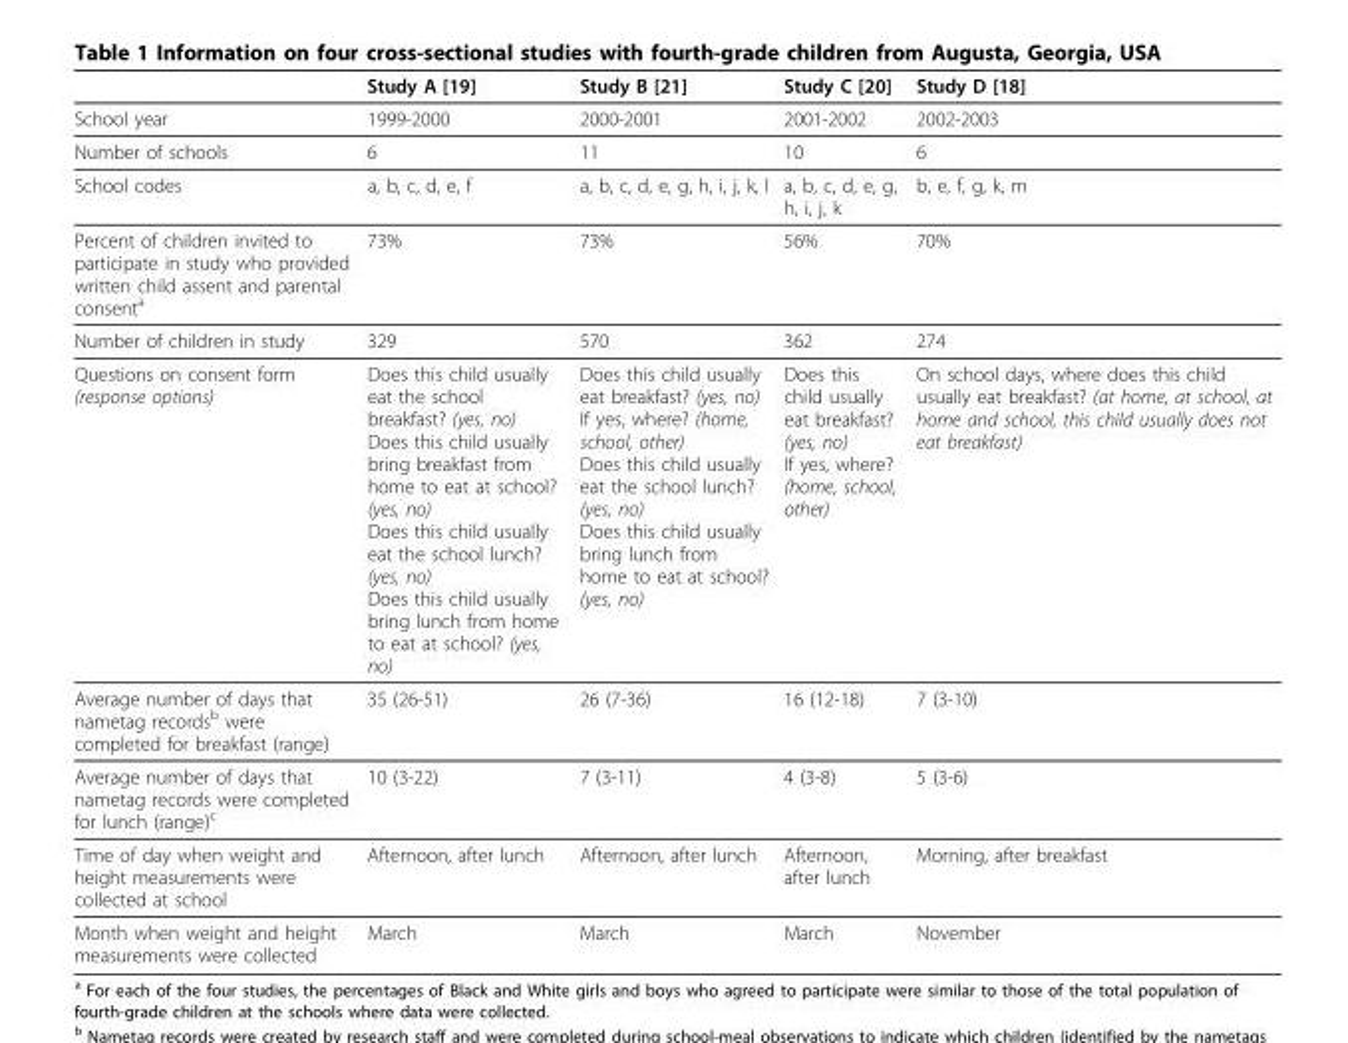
<table><thead><tr><td></td><td>Study A [19]</td><td>Study B [21]</td><td>Study C [20]</td><td>Study D [18]</td></tr></thead><tbody><tr><td>School year</td><td>1999-2000</td><td>2000-2001</td><td>2001-2002</td><td>2002-2003</td></tr><tr><td>Number of schools</td><td>6</td><td>11</td><td>10</td><td>6</td></tr><tr><td>School codes</td><td>a, b, c, d, e, f</td><td>a, b, c, d, e, g, h, i, j, k, l</td><td>a, b, c, d, e, g, h, i, j, k</td><td>b, e, f, g, k, m</td></tr><tr><td>Percent of children invited to participate in study who provided written child assent and parental consent<sup>a</sup></td><td>73%</td><td>73%</td><td>56%</td><td>70%</td></tr><tr><td>Number of children in study</td><td>329</td><td>570</td><td>362</td><td>274</td></tr><tr><td>Questions on consent form (response options)</td><td>Does this child usually eat the school breakfast? (yes, no) Does this child usually bring breakfast from home to eat at school? (yes, no) Does this child usually eat the school lunch? (yes, no) Does this child usually bring lunch from home to eat at school? (yes, no)</td><td>Does this child usually eat breakfast? (yes, no) If yes, where? (home, school, other) Does this child usually eat the school lunch? (yes, no) Does this child usually bring lunch from home to eat at school? (yes, no)</td><td>Does this child usually eat breakfast? (yes, no) If yes, where? (home, school, other)</td><td>On school days, where does this child usually eat breakfast? (at home, at school, at home and school, this child usually does not eat breakfast)</td></tr><tr><td>Average number of days that nametag records<sup>b</sup> were completed for breakfast (range)</td><td>35 (26-51)</td><td>26 (7-36)</td><td>16 (12-18)</td><td>7 (3-10)</td></tr><tr><td>Average number of days that nametag records were completed for lunch (range)<sup>c</sup></td><td>10 (3-22)</td><td>7 (3-11)</td><td>4 (3-8)</td><td>5 (3-6)</td></tr><tr><td>Time of day when weight and height measurements were collected at school</td><td>Afternoon, after lunch</td><td>Afternoon, after lunch</td><td>Afternoon, after lunch</td><td>Morning, after breakfast</td></tr><tr><td>Month when weight and height measurements were collected</td><td>March</td><td>March</td><td>March</td><td>November</td></tr></tbody></table>